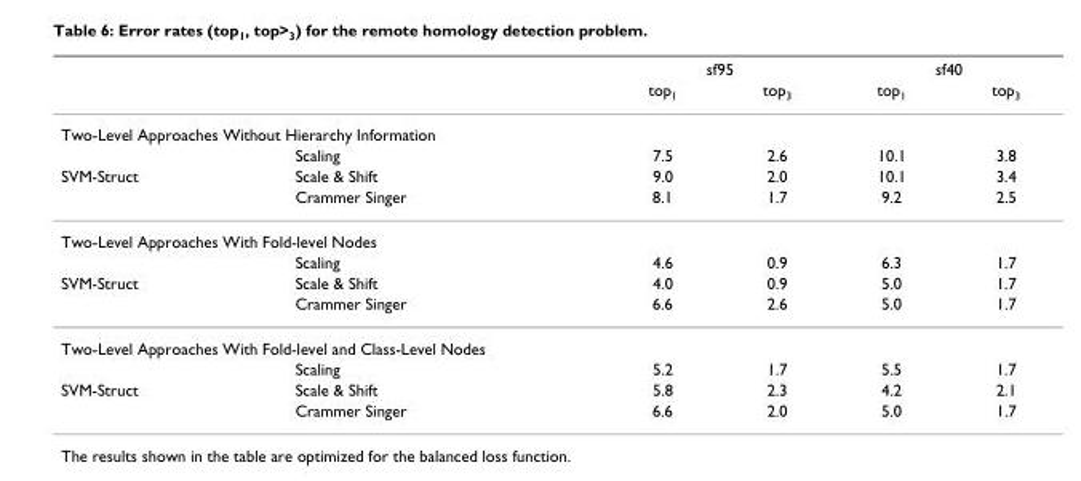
<table><thead><tr><td rowspan="2"></td><td rowspan="2"></td><td colspan="2">sf95</td><td colspan="2">sf40</td></tr><tr><td>top<sub>1</sub></td><td>top<sub>3</sub></td><td>top<sub>1</sub></td><td>top<sub>3</sub></td></tr></thead><tbody><tr><td colspan="6">Two-Level Approaches Without Hierarchy Information</td></tr><tr><td></td><td>Scaling</td><td>7.5</td><td>2.6</td><td>10.1</td><td>3.8</td></tr><tr><td rowspan="2">SVM-Struct</td><td>Scale &amp; Shift</td><td>9.0</td><td>2.0</td><td>10.1</td><td>3.4</td></tr><tr><td>Crammer Singer</td><td>8.1</td><td>1.7</td><td>9.2</td><td>2.5</td></tr><tr><td colspan="6">Two-Level Approaches With Fold-level Nodes</td></tr><tr><td></td><td>Scaling</td><td>4.6</td><td>0.9</td><td>6.3</td><td>1.7</td></tr><tr><td rowspan="2">SVM-Struct</td><td>Scale &amp; Shift</td><td>4.0</td><td>0.9</td><td>5.0</td><td>1.7</td></tr><tr><td>Crammer Singer</td><td>6.6</td><td>2.6</td><td>5.0</td><td>1.7</td></tr><tr><td colspan="6">Two-Level Approaches With Fold-level and Class-Level Nodes</td></tr><tr><td></td><td>Scaling</td><td>5.2</td><td>1.7</td><td>5.5</td><td>1.7</td></tr><tr><td rowspan="2">SVM-Struct</td><td>Scale &amp; Shift</td><td>5.8</td><td>2.3</td><td>4.2</td><td>2.1</td></tr><tr><td>Crammer Singer</td><td>6.6</td><td>2.0</td><td>5.0</td><td>1.7</td></tr></tbody></table>